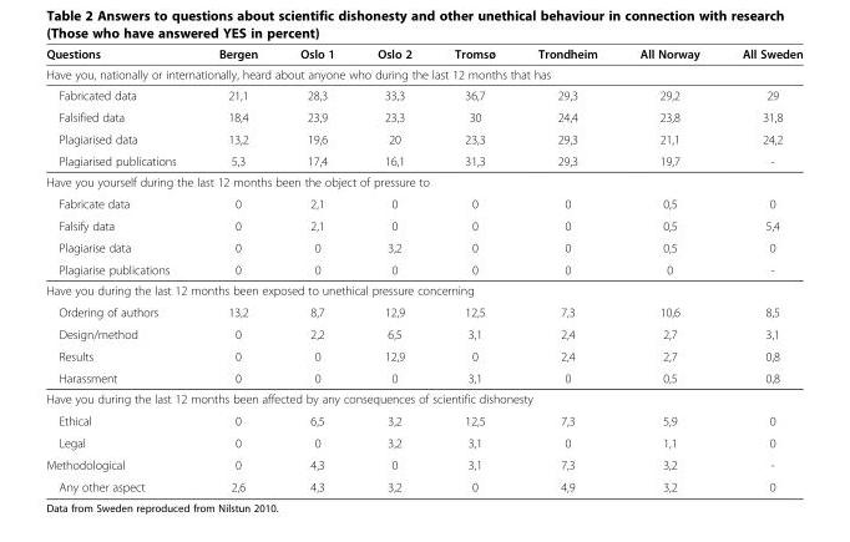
<table><thead><tr><td>Questions</td><td>Bergen</td><td>Oslo 1</td><td>Oslo 2</td><td>Tromsø</td><td>Trondheim</td><td>All Norway</td><td>All Sweden</td></tr></thead><tbody><tr><td colspan="8">Have you, nationally or internationally, heard about anyone who during the last 12 months that has</td></tr><tr><td>Fabricated data</td><td>21,1</td><td>28,3</td><td>33,3</td><td>36,7</td><td>29,3</td><td>29,2</td><td>29</td></tr><tr><td>Falsified data</td><td>18,4</td><td>23,9</td><td>23,3</td><td>30</td><td>24,4</td><td>23,8</td><td>31,8</td></tr><tr><td>Plagiarised data</td><td>13,2</td><td>19,6</td><td>20</td><td>23,3</td><td>29,3</td><td>21,1</td><td>24,2</td></tr><tr><td>Plagiarised publications</td><td>5,3</td><td>17,4</td><td>16,1</td><td>31,3</td><td>29,3</td><td>19,7</td><td>-</td></tr><tr><td colspan="8">Have you yourself during the last 12 months been the object of pressure to</td></tr><tr><td>Fabricate data</td><td>0</td><td>2,1</td><td>0</td><td>0</td><td>0</td><td>0,5</td><td>0</td></tr><tr><td>Falsify data</td><td>0</td><td>2,1</td><td>0</td><td>0</td><td>0</td><td>0,5</td><td>5,4</td></tr><tr><td>Plagiarise data</td><td>0</td><td>0</td><td>3,2</td><td>0</td><td>0</td><td>0,5</td><td>0</td></tr><tr><td>Plagiarise publications</td><td>0</td><td>0</td><td>0</td><td>0</td><td>0</td><td>0</td><td>-</td></tr><tr><td colspan="8">Have you during the last 12 months been exposed to unethical pressure concerning</td></tr><tr><td>Ordering of authors</td><td>13,2</td><td>8,7</td><td>12,9</td><td>12,5</td><td>7,3</td><td>10,6</td><td>8,5</td></tr><tr><td>Design/method</td><td>0</td><td>2,2</td><td>6,5</td><td>3,1</td><td>2,4</td><td>2,7</td><td>3,1</td></tr><tr><td>Results</td><td>0</td><td>0</td><td>12,9</td><td>0</td><td>2,4</td><td>2,7</td><td>0,8</td></tr><tr><td>Harassment</td><td>0</td><td>0</td><td>0</td><td>3,1</td><td>0</td><td>0,5</td><td>0,8</td></tr><tr><td colspan="8">Have you during the last 12 months been affected by any consequences of scientific dishonesty</td></tr><tr><td>Ethical</td><td>0</td><td>6,5</td><td>3,2</td><td>12,5</td><td>7,3</td><td>5,9</td><td>0</td></tr><tr><td>Legal</td><td>0</td><td>0</td><td>3,2</td><td>3,1</td><td>0</td><td>1,1</td><td>0</td></tr><tr><td>Methodological</td><td>0</td><td>4,3</td><td>0</td><td>3,1</td><td>7,3</td><td>3,2</td><td>-</td></tr><tr><td>Any other aspect</td><td>2,6</td><td>4,3</td><td>3,2</td><td>0</td><td>4,9</td><td>3,2</td><td>0</td></tr></tbody></table>